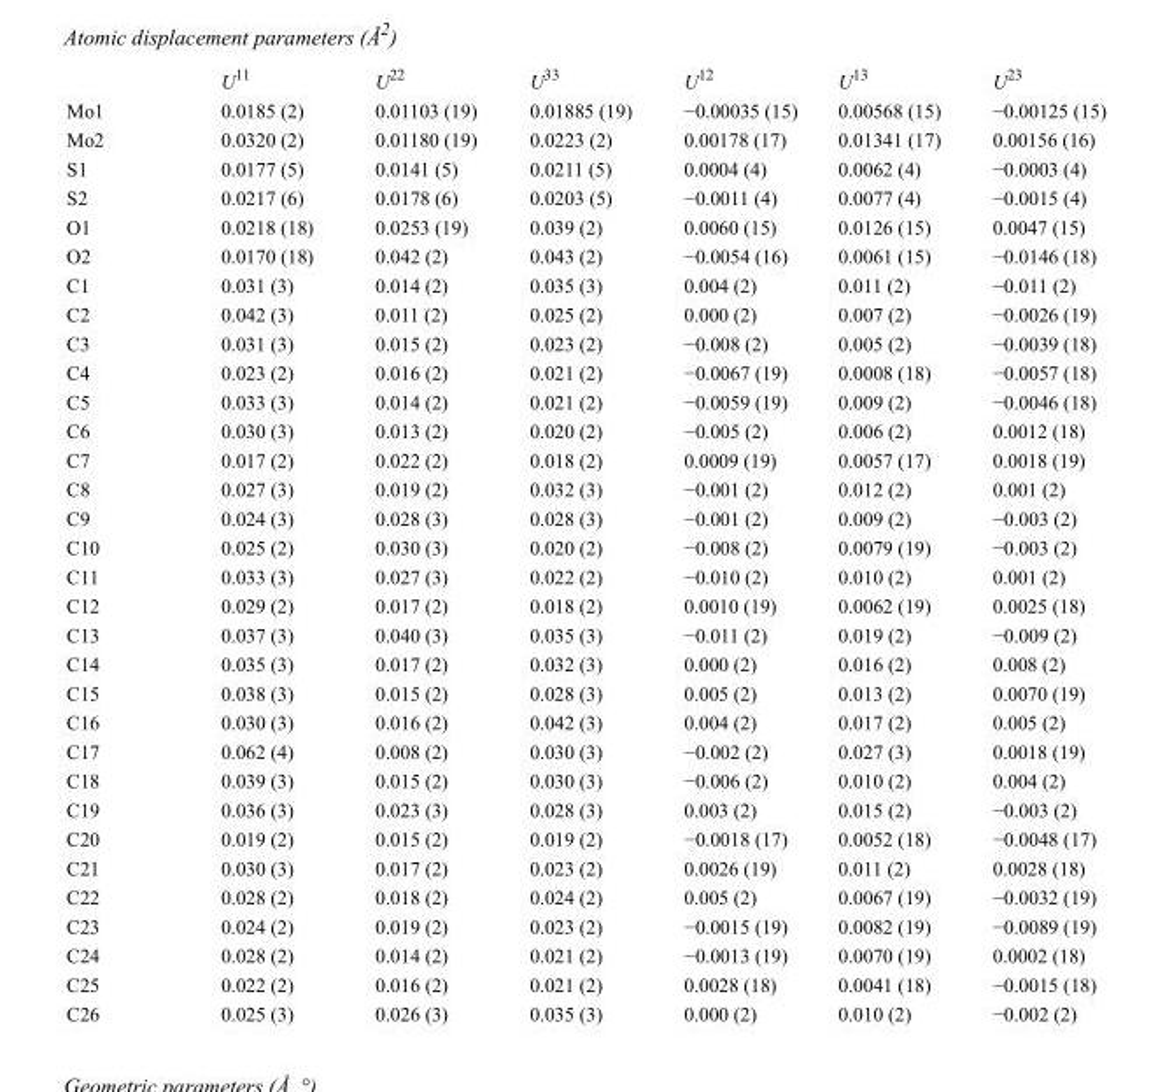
<table><thead><tr><td></td><td>U<sup>11</sup></td><td>U<sup>22</sup></td><td>U<sup>33</sup></td><td>U<sup>12</sup></td><td>U<sup>13</sup></td><td>U<sup>23</sup></td></tr></thead><tbody><tr><td>Mo1</td><td>0.0185 (2)</td><td>0.01103 (19)</td><td>0.01885 (19)</td><td>−0.00035 (15)</td><td>0.00568 (15)</td><td>−0.00125 (15)</td></tr><tr><td>Mo2</td><td>0.0320 (2)</td><td>0.01180 (19)</td><td>0.0223 (2)</td><td>0.00178 (17)</td><td>0.01341 (17)</td><td>0.00156 (16)</td></tr><tr><td>S1</td><td>0.0177 (5)</td><td>0.0141 (5)</td><td>0.0211 (5)</td><td>0.0004 (4)</td><td>0.0062 (4)</td><td>−0.0003 (4)</td></tr><tr><td>S2</td><td>0.0217 (6)</td><td>0.0178 (6)</td><td>0.0203 (5)</td><td>−0.0011 (4)</td><td>0.0077 (4)</td><td>−0.0015 (4)</td></tr><tr><td>O1</td><td>0.0218 (18)</td><td>0.0253 (19)</td><td>0.039 (2)</td><td>0.0060 (15)</td><td>0.0126 (15)</td><td>0.0047 (15)</td></tr><tr><td>O2</td><td>0.0170 (18)</td><td>0.042 (2)</td><td>0.043 (2)</td><td>−0.0054 (16)</td><td>0.0061 (15)</td><td>−0.0146 (18)</td></tr><tr><td>C1</td><td>0.031 (3)</td><td>0.014 (2)</td><td>0.035 (3)</td><td>0.004 (2)</td><td>0.011 (2)</td><td>−0.011 (2)</td></tr><tr><td>C2</td><td>0.042 (3)</td><td>0.011 (2)</td><td>0.025 (2)</td><td>0.000 (2)</td><td>0.007 (2)</td><td>−0.0026 (19)</td></tr><tr><td>C3</td><td>0.031 (3)</td><td>0.015 (2)</td><td>0.023 (2)</td><td>−0.008 (2)</td><td>0.005 (2)</td><td>−0.0039 (18)</td></tr><tr><td>C4</td><td>0.023 (2)</td><td>0.016 (2)</td><td>0.021 (2)</td><td>−0.0067 (19)</td><td>0.0008 (18)</td><td>−0.0057 (18)</td></tr><tr><td>C5</td><td>0.033 (3)</td><td>0.014 (2)</td><td>0.021 (2)</td><td>−0.0059 (19)</td><td>0.009 (2)</td><td>−0.0046 (18)</td></tr><tr><td>C6</td><td>0.030 (3)</td><td>0.013 (2)</td><td>0.020 (2)</td><td>−0.005 (2)</td><td>0.006 (2)</td><td>0.0012 (18)</td></tr><tr><td>C7</td><td>0.017 (2)</td><td>0.022 (2)</td><td>0.018 (2)</td><td>0.0009 (19)</td><td>0.0057 (17)</td><td>0.0018 (19)</td></tr><tr><td>C8</td><td>0.027 (3)</td><td>0.019 (2)</td><td>0.032 (3)</td><td>−0.001 (2)</td><td>0.012 (2)</td><td>0.001 (2)</td></tr><tr><td>C9</td><td>0.024 (3)</td><td>0.028 (3)</td><td>0.028 (3)</td><td>−0.001 (2)</td><td>0.009 (2)</td><td>−0.003 (2)</td></tr><tr><td>C10</td><td>0.025 (2)</td><td>0.030 (3)</td><td>0.020 (2)</td><td>−0.008 (2)</td><td>0.0079 (19)</td><td>−0.003 (2)</td></tr><tr><td>C11</td><td>0.033 (3)</td><td>0.027 (3)</td><td>0.022 (2)</td><td>−0.010 (2)</td><td>0.010 (2)</td><td>0.001 (2)</td></tr><tr><td>C12</td><td>0.029 (2)</td><td>0.017 (2)</td><td>0.018 (2)</td><td>0.0010 (19)</td><td>0.0062 (19)</td><td>0.0025 (18)</td></tr><tr><td>C13</td><td>0.037 (3)</td><td>0.040 (3)</td><td>0.035 (3)</td><td>−0.011 (2)</td><td>0.019 (2)</td><td>−0.009 (2)</td></tr><tr><td>C14</td><td>0.035 (3)</td><td>0.017 (2)</td><td>0.032 (3)</td><td>0.000 (2)</td><td>0.016 (2)</td><td>0.008 (2)</td></tr><tr><td>C15</td><td>0.038 (3)</td><td>0.015 (2)</td><td>0.028 (3)</td><td>0.005 (2)</td><td>0.013 (2)</td><td>0.0070 (19)</td></tr><tr><td>C16</td><td>0.030 (3)</td><td>0.016 (2)</td><td>0.042 (3)</td><td>0.004 (2)</td><td>0.017 (2)</td><td>0.005 (2)</td></tr><tr><td>C17</td><td>0.062 (4)</td><td>0.008 (2)</td><td>0.030 (3)</td><td>−0.002 (2)</td><td>0.027 (3)</td><td>0.0018 (19)</td></tr><tr><td>C18</td><td>0.039 (3)</td><td>0.015 (2)</td><td>0.030 (3)</td><td>−0.006 (2)</td><td>0.010 (2)</td><td>0.004 (2)</td></tr><tr><td>C19</td><td>0.036 (3)</td><td>0.023 (3)</td><td>0.028 (3)</td><td>0.003 (2)</td><td>0.015 (2)</td><td>−0.003 (2)</td></tr><tr><td>C20</td><td>0.019 (2)</td><td>0.015 (2)</td><td>0.019 (2)</td><td>−0.0018 (17)</td><td>0.0052 (18)</td><td>−0.0048 (17)</td></tr><tr><td>C21</td><td>0.030 (3)</td><td>0.017 (2)</td><td>0.023 (2)</td><td>0.0026 (19)</td><td>0.011 (2)</td><td>0.0028 (18)</td></tr><tr><td>C22</td><td>0.028 (2)</td><td>0.018 (2)</td><td>0.024 (2)</td><td>0.005 (2)</td><td>0.0067 (19)</td><td>−0.0032 (19)</td></tr><tr><td>C23</td><td>0.024 (2)</td><td>0.019 (2)</td><td>0.023 (2)</td><td>−0.0015 (19)</td><td>0.0082 (19)</td><td>−0.0089 (19)</td></tr><tr><td>C24</td><td>0.028 (2)</td><td>0.014 (2)</td><td>0.021 (2)</td><td>−0.0013 (19)</td><td>0.0070 (19)</td><td>0.0002 (18)</td></tr><tr><td>C25</td><td>0.022 (2)</td><td>0.016 (2)</td><td>0.021 (2)</td><td>0.0028 (18)</td><td>0.0041 (18)</td><td>−0.0015 (18)</td></tr><tr><td>C26</td><td>0.025 (3)</td><td>0.026 (3)</td><td>0.035 (3)</td><td>0.000 (2)</td><td>0.010 (2)</td><td>−0.002 (2)</td></tr></tbody></table>